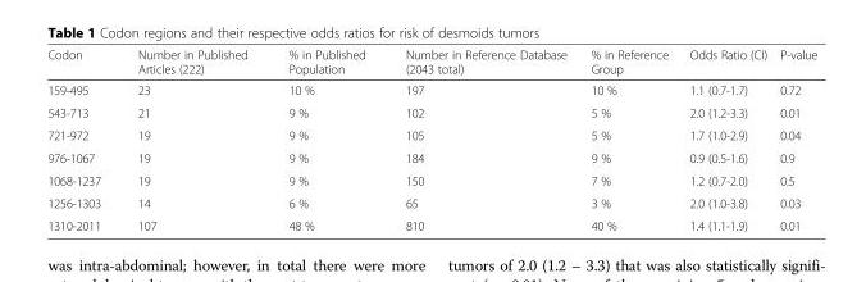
<table><thead><tr><td>Codon</td><td>Number in Published Articles (222)</td><td>% in Published Population</td><td>Number in Reference Database (2043 total)</td><td>% in Reference Group</td><td>Odds Ratio (CI)</td><td>P-value</td></tr></thead><tbody><tr><td>159-495</td><td>23</td><td>10 %</td><td>197</td><td>10 %</td><td>1.1 (0.7-1.7)</td><td>0.72</td></tr><tr><td>543-713</td><td>21</td><td>9 %</td><td>102</td><td>5 %</td><td>2.0 (1.2-3.3)</td><td>0.01</td></tr><tr><td>721-972</td><td>19</td><td>9 %</td><td>105</td><td>5 %</td><td>1.7 (1.0-2.9)</td><td>0.04</td></tr><tr><td>976-1067</td><td>19</td><td>9 %</td><td>184</td><td>9 %</td><td>0.9 (0.5-1.6)</td><td>0.9</td></tr><tr><td>1068-1237</td><td>19</td><td>9 %</td><td>150</td><td>7 %</td><td>1.2 (0.7-2.0)</td><td>0.5</td></tr><tr><td>1256-1303</td><td>14</td><td>6 %</td><td>65</td><td>3 %</td><td>2.0 (1.0-3.8)</td><td>0.03</td></tr><tr><td>1310-2011</td><td>107</td><td>48 %</td><td>810</td><td>40 %</td><td>1.4 (1.1-1.9)</td><td>0.01</td></tr></tbody></table>